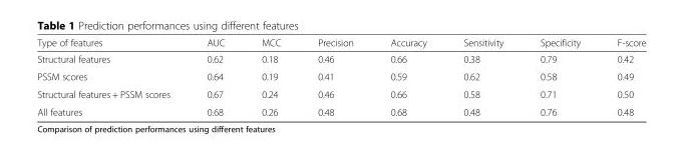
<table><thead><tr><td>Type of features</td><td>AUC</td><td>MCC</td><td>Precision</td><td>Accuracy</td><td>Sensitivity</td><td>Specificity</td><td>F-score</td></tr></thead><tbody><tr><td>Structural features</td><td>0.62</td><td>0.18</td><td>0.46</td><td>0.66</td><td>0.38</td><td>0.79</td><td>0.42</td></tr><tr><td>PSSM scores</td><td>0.64</td><td>0.19</td><td>0.41</td><td>0.59</td><td>0.62</td><td>0.58</td><td>0.49</td></tr><tr><td>Structural features + PSSM scores</td><td>0.67</td><td>0.24</td><td>0.46</td><td>0.66</td><td>0.58</td><td>0.71</td><td>0.50</td></tr><tr><td>All features</td><td>0.68</td><td>0.26</td><td>0.48</td><td>0.68</td><td>0.48</td><td>0.76</td><td>0.48</td></tr></tbody></table>